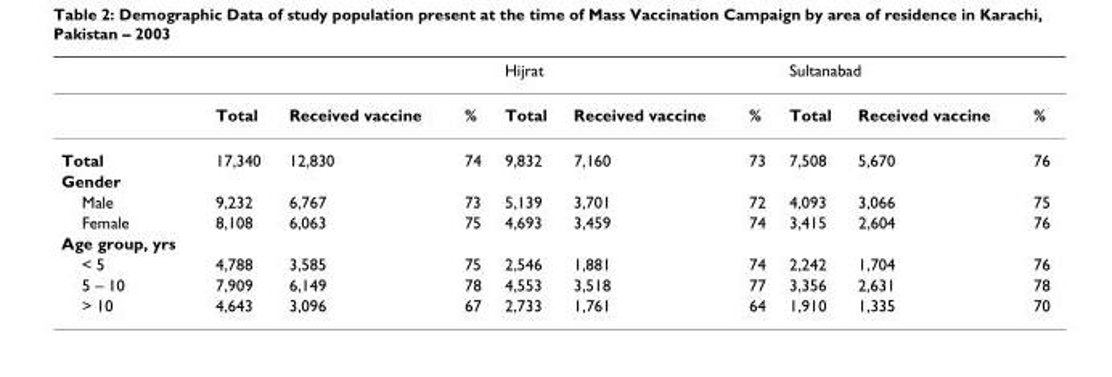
<table><thead><tr><td rowspan="2"></td><td rowspan="2">Total</td><td rowspan="2">Received vaccine</td><td rowspan="2">%</td><td colspan="3">Hijrat</td><td colspan="3">Sultanabad</td></tr><tr><td>Total</td><td>Received vaccine</td><td>%</td><td>Total</td><td>Received vaccine</td><td>%</td></tr></thead><tbody><tr><td>Total</td><td>17,340</td><td>12,830</td><td>74</td><td>9,832</td><td>7,160</td><td>73</td><td>7,508</td><td>5,670</td><td>76</td></tr><tr><td colspan="10">Gender</td></tr><tr><td>Male</td><td>9,232</td><td>6,767</td><td>73</td><td>5,139</td><td>3,701</td><td>72</td><td>4,093</td><td>3,066</td><td>75</td></tr><tr><td>Female</td><td>8,108</td><td>6,063</td><td>75</td><td>4,693</td><td>3,459</td><td>74</td><td>3,415</td><td>2,604</td><td>76</td></tr><tr><td colspan="10">Age group, yrs</td></tr><tr><td>&lt; 5</td><td>4,788</td><td>3,585</td><td>75</td><td>2,546</td><td>1,881</td><td>74</td><td>2,242</td><td>1,704</td><td>76</td></tr><tr><td>5 – 10</td><td>7,909</td><td>6,149</td><td>78</td><td>4,553</td><td>3,518</td><td>77</td><td>3,356</td><td>2,631</td><td>78</td></tr><tr><td>&gt; 10</td><td>4,643</td><td>3,096</td><td>67</td><td>2,733</td><td>1,761</td><td>64</td><td>1,910</td><td>1,335</td><td>70</td></tr></tbody></table>